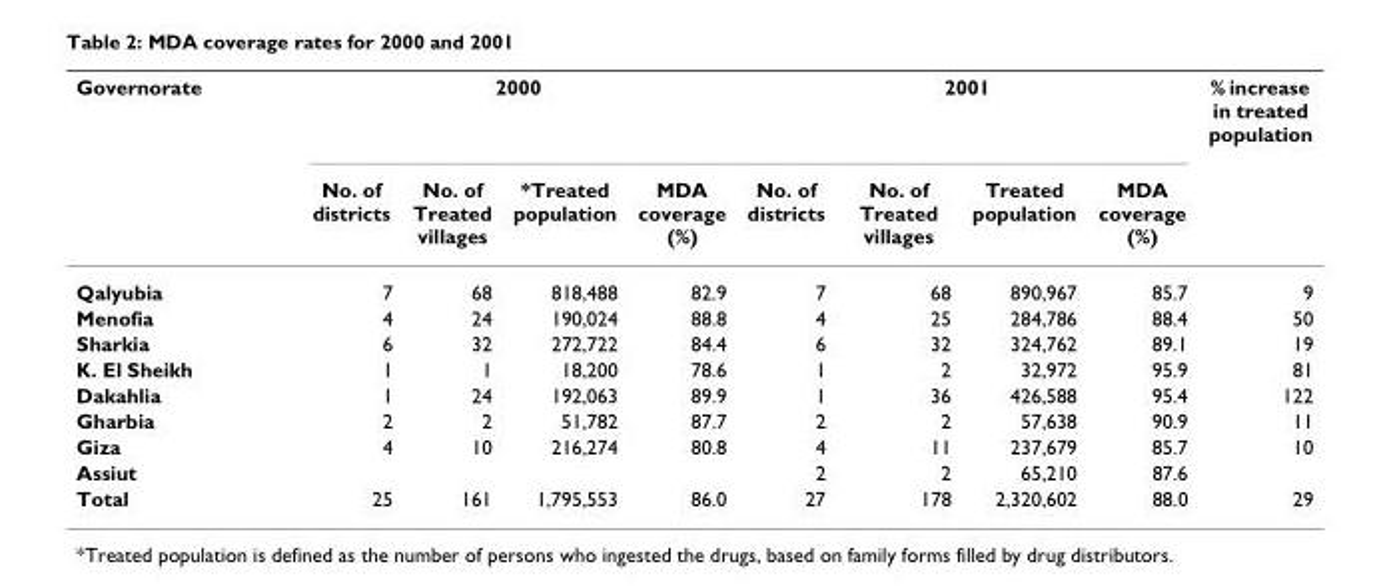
<table><thead><tr><td rowspan="2">Governorate</td><td colspan="4">2000</td><td colspan="4">2001</td><td rowspan="2">% increase in treated population</td></tr><tr><td>No. of districts</td><td>No. of Treated villages</td><td>*Treated population</td><td>MDA coverage (%)</td><td>No. of districts</td><td>No. of Treated villages</td><td>Treated population</td><td>MDA coverage (%)</td></tr></thead><tbody><tr><td>Qalyubia</td><td>7</td><td>68</td><td>818,488</td><td>82.9</td><td>7</td><td>68</td><td>890,967</td><td>85.7</td><td>9</td></tr><tr><td>Menofia</td><td>4</td><td>24</td><td>190,024</td><td>88.8</td><td>4</td><td>25</td><td>284,786</td><td>88.4</td><td>50</td></tr><tr><td>Sharkia</td><td>6</td><td>32</td><td>272,722</td><td>84.4</td><td>6</td><td>32</td><td>324,762</td><td>89.1</td><td>19</td></tr><tr><td>K. El Sheikh</td><td>1</td><td>1</td><td>18,200</td><td>78.6</td><td>1</td><td>2</td><td>32,972</td><td>95.9</td><td>81</td></tr><tr><td>Dakahlia</td><td>1</td><td>24</td><td>192,063</td><td>89.9</td><td>1</td><td>36</td><td>426,588</td><td>95.4</td><td>122</td></tr><tr><td>Gharbia</td><td>2</td><td>2</td><td>51,782</td><td>87.7</td><td>2</td><td>2</td><td>57,638</td><td>90.9</td><td>11</td></tr><tr><td>Giza</td><td>4</td><td>10</td><td>216,274</td><td>80.8</td><td>4</td><td>11</td><td>237,679</td><td>85.7</td><td>10</td></tr><tr><td>Assiut</td><td></td><td></td><td></td><td></td><td>2</td><td>2</td><td>65,210</td><td>87.6</td><td></td></tr><tr><td>Total</td><td>25</td><td>161</td><td>1,795,553</td><td>86.0</td><td>27</td><td>178</td><td>2,320,602</td><td>88.0</td><td>29</td></tr></tbody></table>